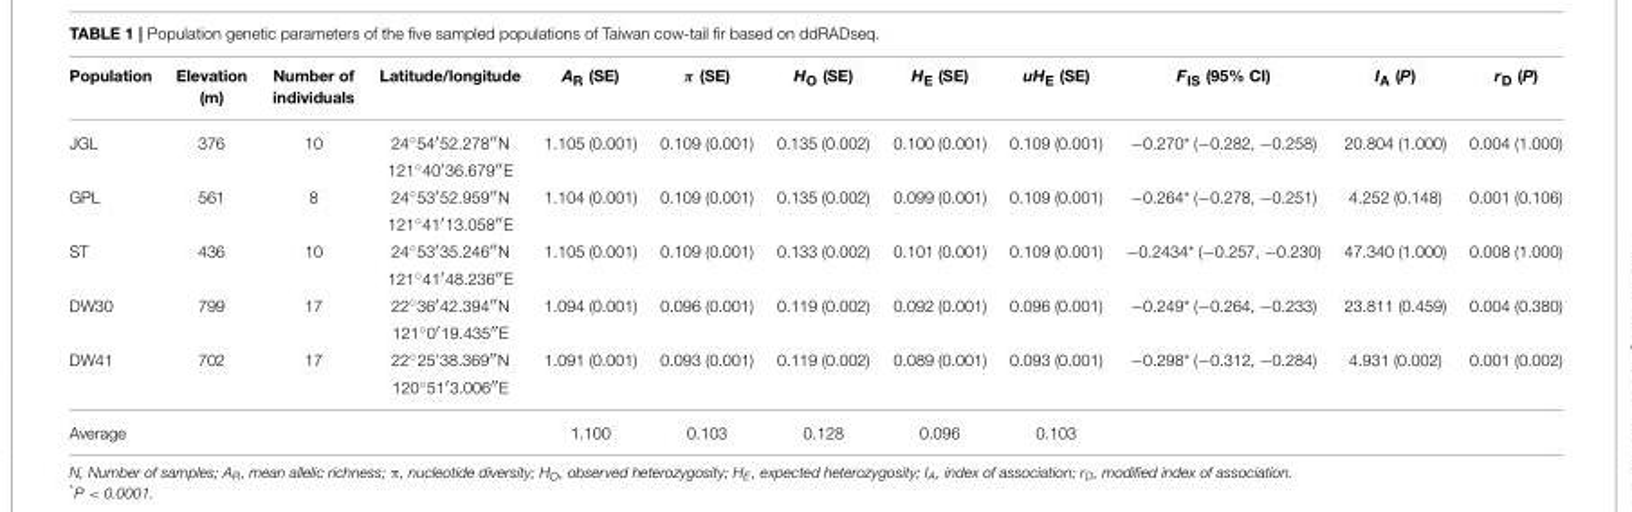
<table><thead><tr><td>Population</td><td>Elevation (m)</td><td>Number of individuals</td><td>Latitude/longitude</td><td>A<sub>R</sub> (SE)</td><td>π (SE)</td><td>H<sub>O</sub> (SE)</td><td>H<sub>E</sub> (SE)</td><td>uH<sub>E</sub> (SE)</td><td>F<sub>IS</sub> (95% CI)</td><td>I<sub>A</sub> (P)</td><td>r<sub>D</sub> (P)</td></tr></thead><tbody><tr><td rowspan="2">JGL</td><td>376</td><td>10</td><td>24◦54′52.278′′N</td><td>1.105 (0.001)</td><td>0.109 (0.001)</td><td>0.135 (0.002)</td><td>0.100 (0.001)</td><td>0.109 (0.001)</td><td>−0.270* (−0.282, −0.258)</td><td>20.804 (1.000)</td><td>0.004 (1.000)</td></tr><tr><td></td><td></td><td>121◦40′36.679′′E</td><td></td><td></td><td></td><td></td><td></td><td></td><td></td><td></td></tr><tr><td rowspan="2">GPL</td><td>561</td><td>8</td><td>24◦53′52.959′′N</td><td>1.104 (0.001)</td><td>0.109 (0.001)</td><td>0.135 (0.002)</td><td>0.099 (0.001)</td><td>0.109 (0.001)</td><td>−0.264* (−0.278, −0.251)</td><td>4.252 (0.148)</td><td>0.001 (0.106)</td></tr><tr><td></td><td></td><td>121◦41′13.058′′E</td><td></td><td></td><td></td><td></td><td></td><td></td><td></td><td></td></tr><tr><td rowspan="2">ST</td><td>436</td><td>10</td><td>24◦53′35.246′′N</td><td>1.105 (0.001)</td><td>0.109 (0.001)</td><td>0.133 (0.002)</td><td>0.101 (0.001)</td><td>0.109 (0.001)</td><td>−0.2434* (−0.257, −0.230)</td><td>47.340 (1.000)</td><td>0.008 (1.000)</td></tr><tr><td></td><td></td><td>121◦41′48.236′′E</td><td></td><td></td><td></td><td></td><td></td><td></td><td></td><td></td></tr><tr><td rowspan="2">DW30</td><td>799</td><td>17</td><td>22◦36′42.394′′N</td><td>1.094 (0.001)</td><td>0.096 (0.001)</td><td>0.119 (0.002)</td><td>0.092 (0.001)</td><td>0.096 (0.001)</td><td>−0.249* (−0.264, −0.233)</td><td>23.811 (0.459)</td><td>0.004 (0.380)</td></tr><tr><td></td><td></td><td>121◦0′19.435′′E</td><td></td><td></td><td></td><td></td><td></td><td></td><td></td><td></td></tr><tr><td rowspan="2">DW41</td><td>702</td><td>17</td><td>22◦25’38.369′′N</td><td>1.091 (0.001)</td><td>0.093 (0.001)</td><td>0.119 (0.002)</td><td>0.089 (0.001)</td><td>0.093 (0.001)</td><td>−0.298* (−0.312, −0.284)</td><td>4.931 (0.002)</td><td>0.001 (0.002)</td></tr><tr><td></td><td></td><td>120◦51′3.006′′E</td><td></td><td></td><td></td><td></td><td></td><td></td><td></td><td></td></tr><tr><td>Average</td><td></td><td></td><td></td><td>1.100</td><td>0.103</td><td>0.128</td><td>0.096</td><td>0.103</td><td></td><td></td><td></td></tr></tbody></table>